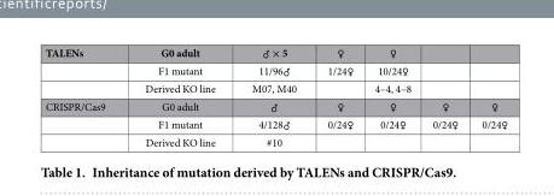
<table><thead><tr><td>TALENs</td><td>G0 adult</td><td>♂ × 5</td><td>♀</td><td>♀</td><td></td><td></td></tr></thead><tbody><tr><td></td><td>F1 mutant</td><td>11/96♂</td><td>1/24♀</td><td>10/24♀</td><td></td><td></td></tr><tr><td></td><td>Derived KO line</td><td>M07, M40</td><td></td><td>4–4, 4–8</td><td></td><td></td></tr><tr><td rowspan="3">CRISPR/Cas9</td><td>G0 adult</td><td>♂</td><td>♀</td><td>♀</td><td>♀</td><td>♀</td></tr><tr><td>F1 mutant</td><td>4/128♂</td><td>0/24♀</td><td>0/24♀</td><td>0/24♀</td><td>0/24♀</td></tr><tr><td>Derived KO line</td><td>#10</td><td></td><td></td><td></td><td></td></tr></tbody></table>